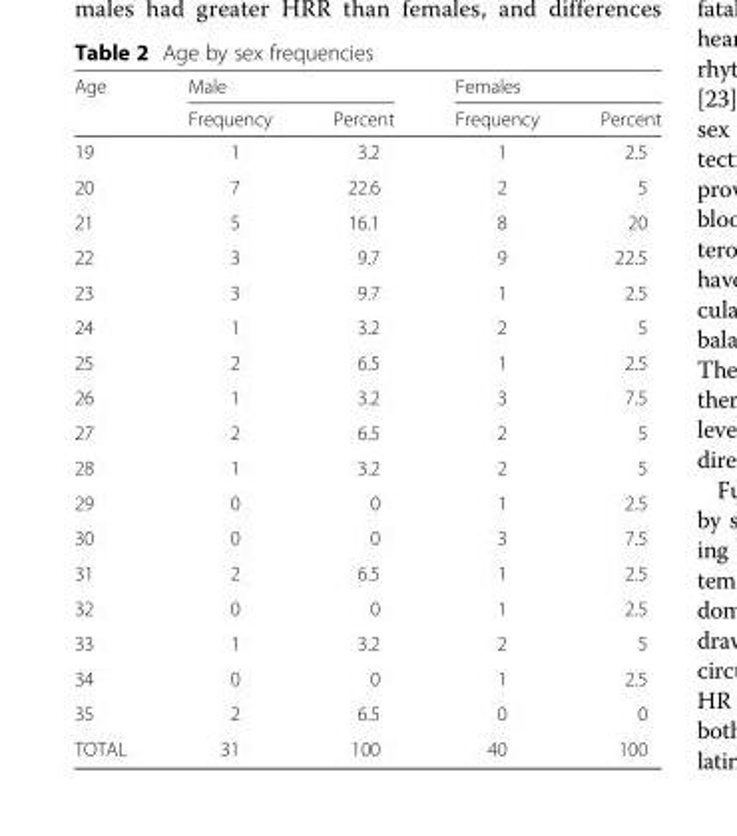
<table><thead><tr><td rowspan="2">Age</td><td colspan="2">Male</td><td colspan="2">Females</td></tr><tr><td>Frequency</td><td>Percent</td><td>Frequency</td><td>Percent</td></tr></thead><tbody><tr><td>19</td><td>1</td><td>3.2</td><td>1</td><td>2.5</td></tr><tr><td>20</td><td>7</td><td>22.6</td><td>2</td><td>5</td></tr><tr><td>21</td><td>5</td><td>16.1</td><td>8</td><td>20</td></tr><tr><td>22</td><td>3</td><td>9.7</td><td>9</td><td>22.5</td></tr><tr><td>23</td><td>3</td><td>9.7</td><td>1</td><td>2.5</td></tr><tr><td>24</td><td>1</td><td>3.2</td><td>2</td><td>5</td></tr><tr><td>25</td><td>2</td><td>6.5</td><td>1</td><td>2.5</td></tr><tr><td>26</td><td>1</td><td>3.2</td><td>3</td><td>7.5</td></tr><tr><td>27</td><td>2</td><td>6.5</td><td>2</td><td>5</td></tr><tr><td>28</td><td>1</td><td>3.2</td><td>2</td><td>5</td></tr><tr><td>29</td><td>0</td><td>0</td><td>1</td><td>2.5</td></tr><tr><td>30</td><td>0</td><td>0</td><td>3</td><td>7.5</td></tr><tr><td>31</td><td>2</td><td>6.5</td><td>1</td><td>2.5</td></tr><tr><td>32</td><td>0</td><td>0</td><td>1</td><td>2.5</td></tr><tr><td>33</td><td>1</td><td>3.2</td><td>2</td><td>5</td></tr><tr><td>34</td><td>0</td><td>0</td><td>1</td><td>2.5</td></tr><tr><td>35</td><td>2</td><td>6.5</td><td>0</td><td>0</td></tr><tr><td>TOTAL</td><td>31</td><td>100</td><td>40</td><td>100</td></tr></tbody></table>